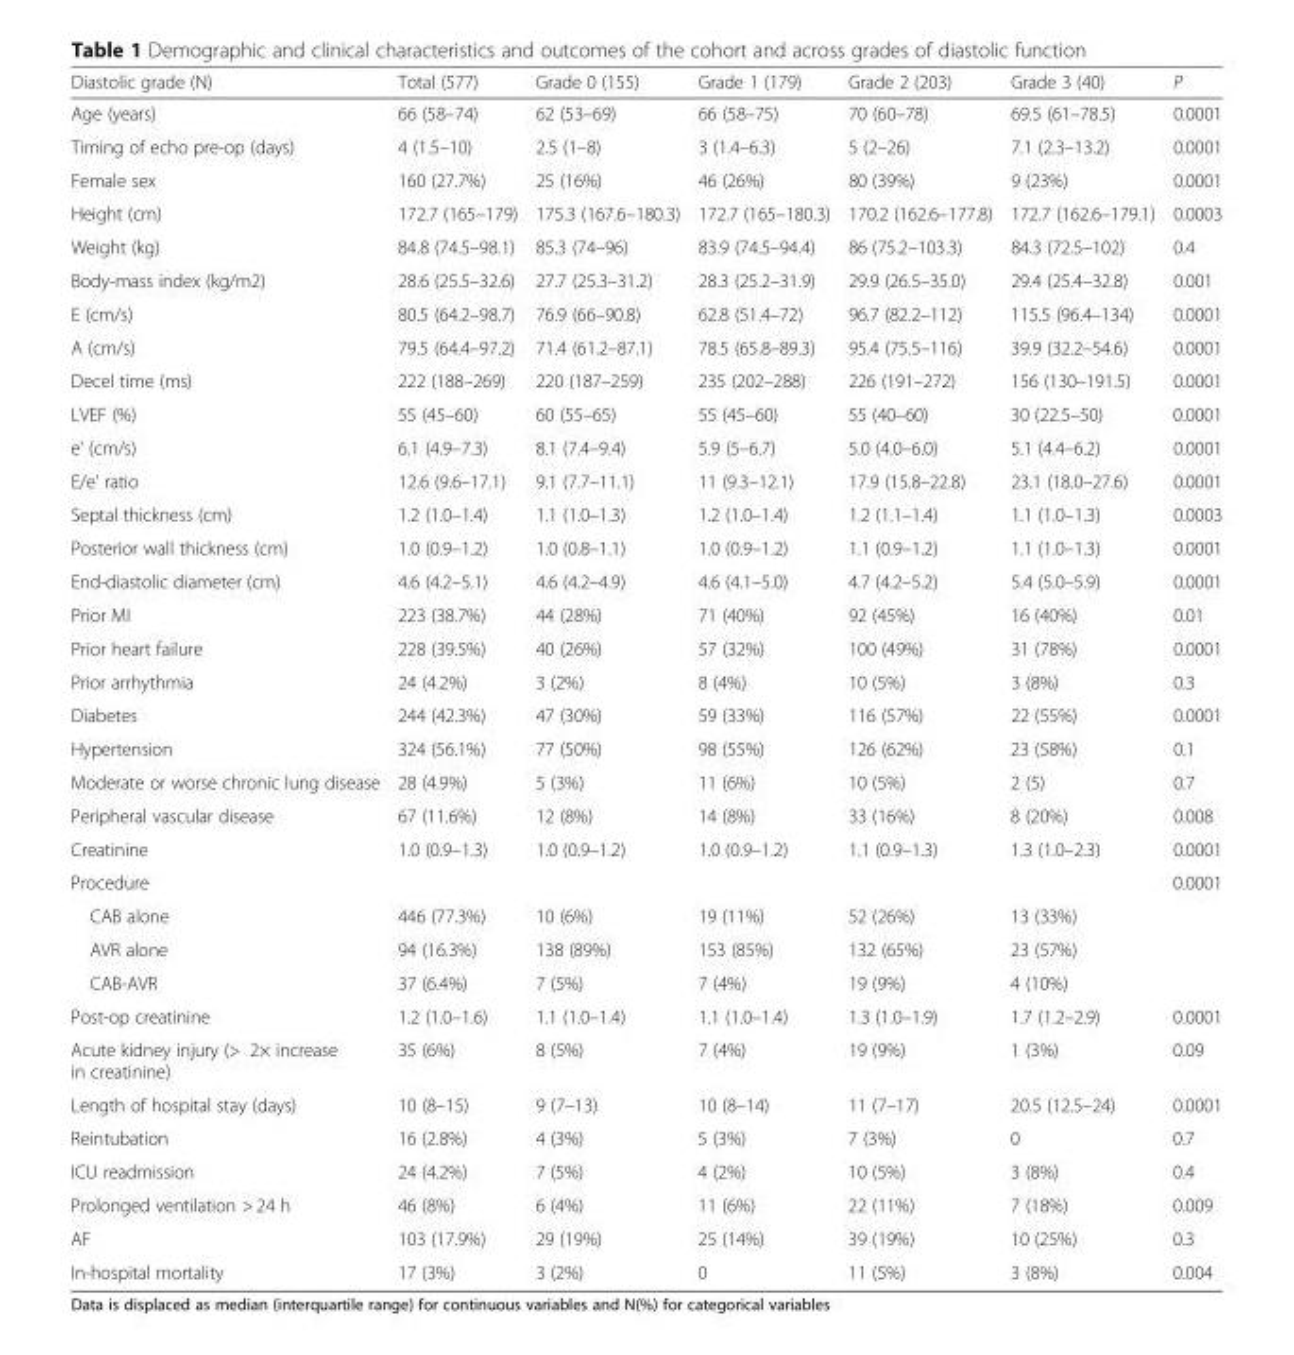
<table><thead><tr><td>Diastolic grade (N)</td><td>Total (577)</td><td>Grade 0 (155)</td><td>Grade 1 (179)</td><td>Grade 2 (203)</td><td>Grade 3 (40)</td><td>P</td></tr></thead><tbody><tr><td>Age (years)</td><td>66 (58–74)</td><td>62 (53–69)</td><td>66 (58–75)</td><td>70 (60–78)</td><td>69.5 (61–78.5)</td><td>0.0001</td></tr><tr><td>Timing of echo pre-op (days)</td><td>4 (1.5–10)</td><td>2.5 (1–8)</td><td>3 (1.4–6.3)</td><td>5 (2–26)</td><td>7.1 (2.3–13.2)</td><td>0.0001</td></tr><tr><td>Female sex</td><td>160 (27.7%)</td><td>25 (16%)</td><td>46 (26%)</td><td>80 (39%)</td><td>9 (23%)</td><td>0.0001</td></tr><tr><td>Height (cm)</td><td>172.7 (165–179)</td><td>175.3 (167.6–180.3)</td><td>172.7 (165–180.3)</td><td>170.2 (162.6–177.8)</td><td>172.7 (162.6–179.1)</td><td>0.0003</td></tr><tr><td>Weight (kg)</td><td>84.8 (74.5–98.1)</td><td>85.3 (74–96)</td><td>83.9 (74.5–94.4)</td><td>86 (75.2–103.3)</td><td>84.3 (72.5–102)</td><td>0.4</td></tr><tr><td>Body-mass index (kg/m2)</td><td>28.6 (25.5–32.6)</td><td>27.7 (25.3–31.2)</td><td>28.3 (25.2–31.9)</td><td>29.9 (26.5–35.0)</td><td>29.4 (25.4–32.8)</td><td>0.001</td></tr><tr><td>E (cm/s)</td><td>80.5 (64.2–98.7)</td><td>76.9 (66–90.8)</td><td>62.8 (51.4–72)</td><td>96.7 (82.2–112)</td><td>115.5 (96.4–134)</td><td>0.0001</td></tr><tr><td>A (cm/s)</td><td>79.5 (64.4–97.2)</td><td>71.4 (61.2–87.1)</td><td>78.5 (65.8–89.3)</td><td>95.4 (75.5–116)</td><td>39.9 (32.2–54.6)</td><td>0.0001</td></tr><tr><td>Decel time (ms)</td><td>222 (188–269)</td><td>220 (187–259)</td><td>235 (202–288)</td><td>226 (191–272)</td><td>156 (130–191.5)</td><td>0.0001</td></tr><tr><td>LVEF (%)</td><td>55 (45–60)</td><td>60 (55–65)</td><td>55 (45–60)</td><td>55 (40–60)</td><td>30 (22.5–50)</td><td>0.0001</td></tr><tr><td>e’ (cm/s)</td><td>6.1 (4.9–7.3)</td><td>8.1 (7.4–9.4)</td><td>5.9 (5–6.7)</td><td>5.0 (4.0–6.0)</td><td>5.1 (4.4–6.2)</td><td>0.0001</td></tr><tr><td>E/e’ ratio</td><td>12.6 (9.6–17.1)</td><td>9.1 (7.7–11.1)</td><td>11 (9.3–12.1)</td><td>17.9 (15.8–22.8)</td><td>23.1 (18.0–27.6)</td><td>0.0001</td></tr><tr><td>Septal thickness (cm)</td><td>1.2 (1.0–1.4)</td><td>1.1 (1.0–1.3)</td><td>1.2 (1.0–1.4)</td><td>1.2 (1.1–1.4)</td><td>1.1 (1.0–1.3)</td><td>0.0003</td></tr><tr><td>Posterior wall thickness (cm)</td><td>1.0 (0.9–1.2)</td><td>1.0 (0.8–1.1)</td><td>1.0 (0.9–1.2)</td><td>1.1 (0.9–1.2)</td><td>1.1 (1.0–1.3)</td><td>0.0001</td></tr><tr><td>End-diastolic diameter (cm)</td><td>4.6 (4.2–5.1)</td><td>4.6 (4.2–4.9)</td><td>4.6 (4.1–5.0)</td><td>4.7 (4.2–5.2)</td><td>5.4 (5.0–5.9)</td><td>0.0001</td></tr><tr><td>Prior MI</td><td>223 (38.7%)</td><td>44 (28%)</td><td>71 (40%)</td><td>92 (45%)</td><td>16 (40%)</td><td>0.01</td></tr><tr><td>Prior heart failure</td><td>228 (39.5%)</td><td>40 (26%)</td><td>57 (32%)</td><td>100 (49%)</td><td>31 (78%)</td><td>0.0001</td></tr><tr><td>Prior arrhythmia</td><td>24 (4.2%)</td><td>3 (2%)</td><td>8 (4%)</td><td>10 (5%)</td><td>3 (8%)</td><td>0.3</td></tr><tr><td>Diabetes</td><td>244 (42.3%)</td><td>47 (30%)</td><td>59 (33%)</td><td>116 (57%)</td><td>22 (55%)</td><td>0.0001</td></tr><tr><td>Hypertension</td><td>324 (56.1%)</td><td>77 (50%)</td><td>98 (55%)</td><td>126 (62%)</td><td>23 (58%)</td><td>0.1</td></tr><tr><td>Moderate or worse chronic lung disease</td><td>28 (4.9%)</td><td>5 (3%)</td><td>11 (6%)</td><td>10 (5%)</td><td>2 (5)</td><td>0.7</td></tr><tr><td>Peripheral vascular disease</td><td>67 (11.6%)</td><td>12 (8%)</td><td>14 (8%)</td><td>33 (16%)</td><td>8 (20%)</td><td>0.008</td></tr><tr><td>Creatinine</td><td>1.0 (0.9–1.3)</td><td>1.0 (0.9–1.2)</td><td>1.0 (0.9–1.2)</td><td>1.1 (0.9–1.3)</td><td>1.3 (1.0–2.3)</td><td>0.0001</td></tr><tr><td>Procedure</td><td></td><td></td><td></td><td></td><td></td><td>0.0001</td></tr><tr><td>CAB alone</td><td>446 (77.3%)</td><td>10 (6%)</td><td>19 (11%)</td><td>52 (26%)</td><td>13 (33%)</td><td></td></tr><tr><td>AVR alone</td><td>94 (16.3%)</td><td>138 (89%)</td><td>153 (85%)</td><td>132 (65%)</td><td>23 (57%)</td><td></td></tr><tr><td>CAB-AVR</td><td>37 (6.4%)</td><td>7 (5%)</td><td>7 (4%)</td><td>19 (9%)</td><td>4 (10%)</td><td></td></tr><tr><td>Post-op creatinine</td><td>1.2 (1.0–1.6)</td><td>1.1 (1.0–1.4)</td><td>1.1 (1.0–1.4)</td><td>1.3 (1.0–1.9)</td><td>1.7 (1.2–2.9)</td><td>0.0001</td></tr><tr><td>Acute kidney injury (&gt; 2× increase in creatinine)</td><td>35 (6%)</td><td>8 (5%)</td><td>7 (4%)</td><td>19 (9%)</td><td>1 (3%)</td><td>0.09</td></tr><tr><td>Length of hospital stay (days)</td><td>10 (8–15)</td><td>9 (7–13)</td><td>10 (8–14)</td><td>11 (7–17)</td><td>20.5 (12.5–24)</td><td>0.0001</td></tr><tr><td>Reintubation</td><td>16 (2.8%)</td><td>4 (3%)</td><td>5 (3%)</td><td>7 (3%)</td><td>0</td><td>0.7</td></tr><tr><td>ICU readmission</td><td>24 (4.2%)</td><td>7 (5%)</td><td>4 (2%)</td><td>10 (5%)</td><td>3 (8%)</td><td>0.4</td></tr><tr><td>Prolonged ventilation &gt; 24 h</td><td>46 (8%)</td><td>6 (4%)</td><td>11 (6%)</td><td>22 (11%)</td><td>7 (18%)</td><td>0.009</td></tr><tr><td>AF</td><td>103 (17.9%)</td><td>29 (19%)</td><td>25 (14%)</td><td>39 (19%)</td><td>10 (25%)</td><td>0.3</td></tr><tr><td>In-hospital mortality</td><td>17 (3%)</td><td>3 (2%)</td><td>0</td><td>11 (5%)</td><td>3 (8%)</td><td>0.004</td></tr></tbody></table>